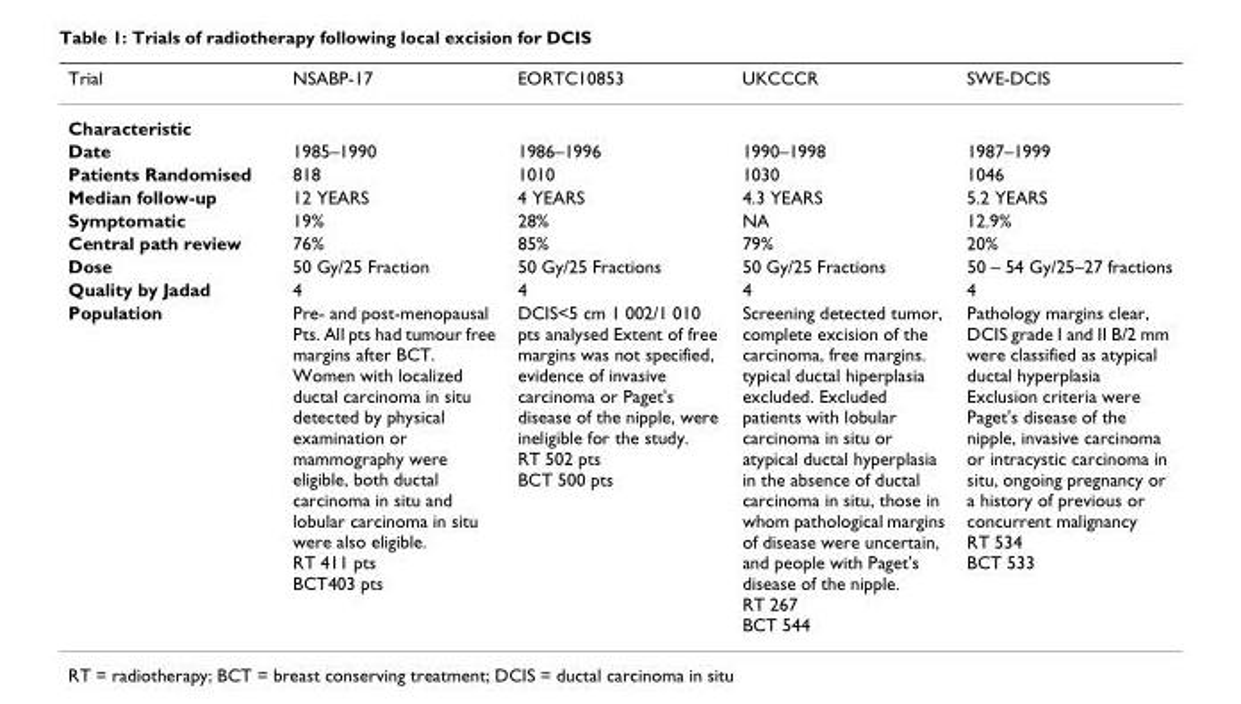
<table><thead><tr><td>Trial</td><td>NSABP-17</td><td>EORTC10853</td><td>UKCCCR</td><td>SWE-DCIS</td></tr></thead><tbody><tr><td colspan="5">Characteristic</td></tr><tr><td>Date</td><td>1985–1990</td><td>1986–1996</td><td>1990–1998</td><td>1987–1999</td></tr><tr><td>Patients Randomised</td><td>818</td><td>1010</td><td>1030</td><td>1046</td></tr><tr><td>Median follow-up</td><td>12 YEARS</td><td>4 YEARS</td><td>4.3 YEARS</td><td>5.2 YEARS</td></tr><tr><td>Symptomatic</td><td>19%</td><td>28%</td><td>NA</td><td>12.9%</td></tr><tr><td>Central path review</td><td>76%</td><td>85%</td><td>79%</td><td>20%</td></tr><tr><td>Dose</td><td>50 Gy/25 Fraction</td><td>50 Gy/25 Fractions</td><td>50 Gy/25 Fractions</td><td>50 – 54 Gy/25–27 fractions</td></tr><tr><td>Quality by Jadad</td><td>4</td><td>4</td><td>4</td><td>4</td></tr><tr><td>Population</td><td>Pre- and post-menopausal Pts. All pts had tumour free margins after BCT. Women with localized ductal carcinoma in situ detected by physical examination or mammography were eligible, both ductal carcinoma in situ and lobular carcinoma in situ were also eligible. RT 411 pts BCT403 pts</td><td>DCIS&lt;5 cm 1 002/1 010 pts analysed Extent of free margins was not specified, evidence of invasive carcinoma or Paget&#x27;s disease of the nipple, were ineligible for the study. RT 502 pts BCT 500 pts</td><td>Screening detected tumor, complete excision of the carcinoma, free margins. typical ductal hiperplasia excluded. Excluded patients with lobular carcinoma in situ or atypical ductal hyperplasia in the absence of ductal carcinoma in situ, those in whom pathological margins of disease were uncertain, and people with Paget&#x27;s disease of the nipple. RT 267 BCT 544</td><td>Pathology margins clear, DCIS grade I and II B/2 mm were classified as atypical ductal hyperplasia Exclusion criteria were Paget&#x27;s disease of the nipple, invasive carcinoma or intracystic carcinoma in situ, ongoing pregnancy or a history of previous or concurrent malignancy RT 534 BCT 533</td></tr></tbody></table>